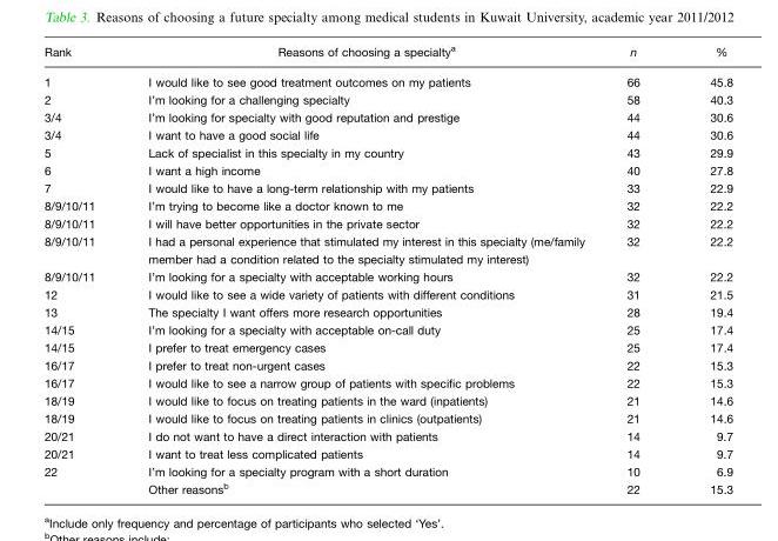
<table><thead><tr><td>Rank</td><td>Reasons of choosing a specialty<sup>a</sup></td><td>n</td><td>%</td></tr></thead><tbody><tr><td>1</td><td>I would like to see good treatment outcomes on my patients</td><td>66</td><td>45.8</td></tr><tr><td>2</td><td>I’m looking for a challenging specialty</td><td>58</td><td>40.3</td></tr><tr><td>3/4</td><td>I’m looking for specialty with good reputation and prestige</td><td>44</td><td>30.6</td></tr><tr><td>3/4</td><td>I want to have a good social life</td><td>44</td><td>30.6</td></tr><tr><td>5</td><td>Lack of specialist in this specialty in my country</td><td>43</td><td>29.9</td></tr><tr><td>6</td><td>I want a high income</td><td>40</td><td>27.8</td></tr><tr><td>7</td><td>I would like to have a long-term relationship with my patients</td><td>33</td><td>22.9</td></tr><tr><td>8/9/10/11</td><td>I’m trying to become like a doctor known to me</td><td>32</td><td>22.2</td></tr><tr><td>8/9/10/11</td><td>I will have better opportunities in the private sector</td><td>32</td><td>22.2</td></tr><tr><td>8/9/10/11</td><td>I had a personal experience that stimulated my interest in this specialty (me/family member had a condition related to the specialty stimulated my interest)</td><td>32</td><td>22.2</td></tr><tr><td>8/9/10/11</td><td>I’m looking for a specialty with acceptable working hours</td><td>32</td><td>22.2</td></tr><tr><td>12</td><td>I would like to see a wide variety of patients with different conditions</td><td>31</td><td>21.5</td></tr><tr><td>13</td><td>The specialty I want offers more research opportunities</td><td>28</td><td>19.4</td></tr><tr><td>14/15</td><td>I’m looking for a specialty with acceptable on-call duty</td><td>25</td><td>17.4</td></tr><tr><td>14/15</td><td>I prefer to treat emergency cases</td><td>25</td><td>17.4</td></tr><tr><td>16/17</td><td>I prefer to treat non-urgent cases</td><td>22</td><td>15.3</td></tr><tr><td>16/17</td><td>I would like to see a narrow group of patients with specific problems</td><td>22</td><td>15.3</td></tr><tr><td>18/19</td><td>I would like to focus on treating patients in the ward (inpatients)</td><td>21</td><td>14.6</td></tr><tr><td>18/19</td><td>I would like to focus on treating patients in clinics (outpatients)</td><td>21</td><td>14.6</td></tr><tr><td>20/21</td><td>I do not want to have a direct interaction with patients</td><td>14</td><td>9.7</td></tr><tr><td>20/21</td><td>I want to treat less complicated patients</td><td>14</td><td>9.7</td></tr><tr><td rowspan="2">22</td><td>I’m looking for a specialty program with a short duration</td><td>10</td><td>6.9</td></tr><tr><td>Other reasons<sup>b</sup></td><td>22</td><td>15.3</td></tr></tbody></table>